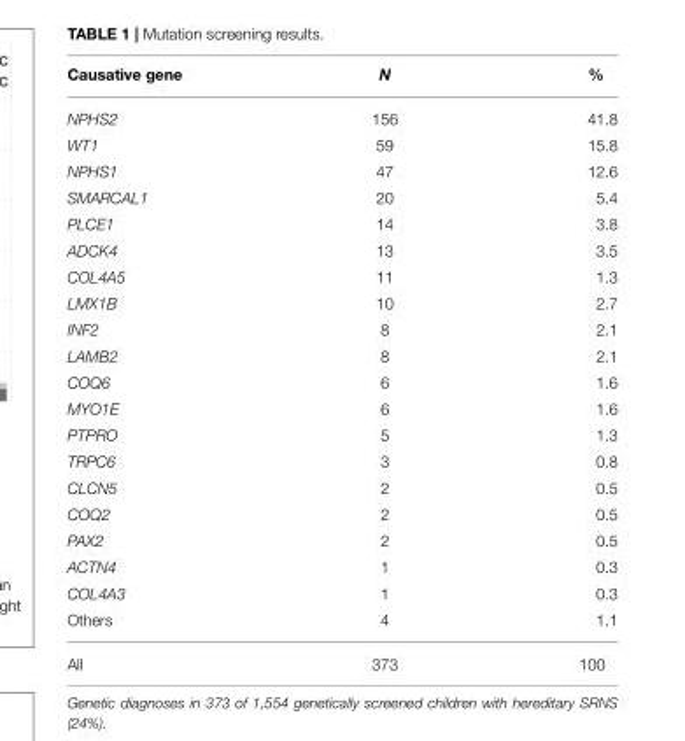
<table><thead><tr><td>Causative gene</td><td>N</td><td>%</td></tr></thead><tbody><tr><td>NPHS2</td><td>156</td><td>41.8</td></tr><tr><td>WT1</td><td>59</td><td>15.8</td></tr><tr><td>NPHS1</td><td>47</td><td>12.6</td></tr><tr><td>SMARCAL1</td><td>20</td><td>5.4</td></tr><tr><td>PLCE1</td><td>14</td><td>3.8</td></tr><tr><td>ADCK4</td><td>13</td><td>3.5</td></tr><tr><td>COL4A5</td><td>11</td><td>1.3</td></tr><tr><td>LMX1B</td><td>10</td><td>2.7</td></tr><tr><td>INF2</td><td>8</td><td>2.1</td></tr><tr><td>LAMB2</td><td>8</td><td>2.1</td></tr><tr><td>COQ6</td><td>6</td><td>1.6</td></tr><tr><td>MYO1E</td><td>6</td><td>1.6</td></tr><tr><td>PTPRO</td><td>5</td><td>1.3</td></tr><tr><td>TRPC6</td><td>3</td><td>0.8</td></tr><tr><td>CLCN5</td><td>2</td><td>0.5</td></tr><tr><td>COQ2</td><td>2</td><td>0.5</td></tr><tr><td>PAX2</td><td>2</td><td>0.5</td></tr><tr><td>ACTN4</td><td>1</td><td>0.3</td></tr><tr><td>COL4A3</td><td>1</td><td>0.3</td></tr><tr><td>Others</td><td>4</td><td>1.1</td></tr><tr><td>All</td><td>373</td><td>100</td></tr></tbody></table>